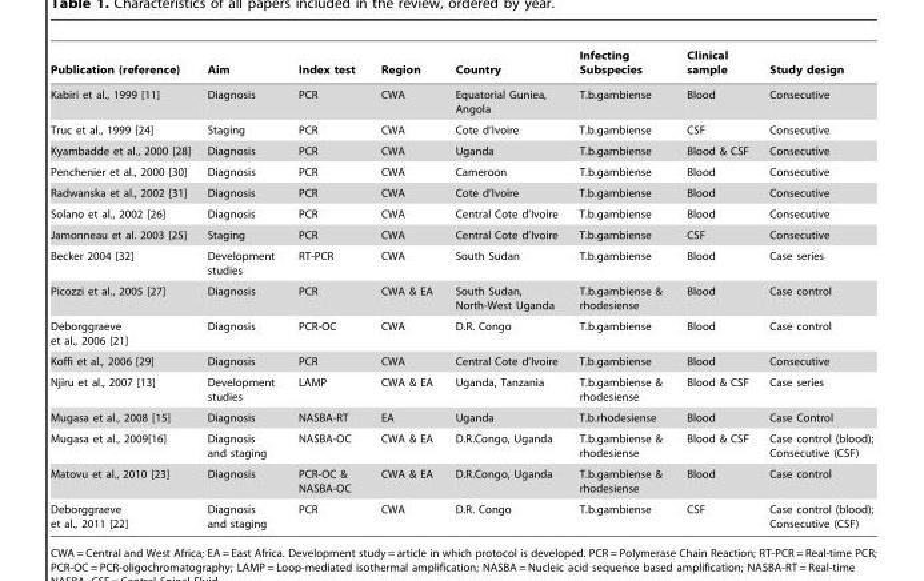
<table><thead><tr><td>Publication (reference)</td><td>Aim</td><td>Index test</td><td>Region</td><td>Country</td><td>Infecting Subspecies</td><td>Clinical sample</td><td>Study design</td></tr></thead><tbody><tr><td>Kabiri et al., 1999 [11]</td><td>Diagnosis</td><td>PCR</td><td>CWA</td><td>Equatorial Guniea, Angola</td><td>T.b.gambiense</td><td>Blood</td><td>Consecutive</td></tr><tr><td>Truc et al., 1999 [24]</td><td>Staging</td><td>PCR</td><td>CWA</td><td>Cote d’Ivoire</td><td>T.b.gambiense</td><td>CSF</td><td>Consecutive</td></tr><tr><td>Kyambadde et al., 2000 [28]</td><td>Diagnosis</td><td>PCR</td><td>CWA</td><td>Uganda</td><td>T.b.gambiense</td><td>Blood &amp; CSF</td><td>Consecutive</td></tr><tr><td>Penchenier et al., 2000 [30]</td><td>Diagnosis</td><td>PCR</td><td>CWA</td><td>Cameroon</td><td>T.b.gambiense</td><td>Blood</td><td>Consecutive</td></tr><tr><td>Radwanska et al., 2002 [31]</td><td>Diagnosis</td><td>PCR</td><td>CWA</td><td>Cote d’Ivoire</td><td>T.b.gambiense</td><td>Blood</td><td>Consecutive</td></tr><tr><td>Solano et al., 2002 [26]</td><td>Diagnosis</td><td>PCR</td><td>CWA</td><td>Central Cote d’Ivoire</td><td>T.b.gambiense</td><td>Blood</td><td>Consecutive</td></tr><tr><td>Jamonneau et al. 2003 [25]</td><td>Staging</td><td>PCR</td><td>CWA</td><td>Central Cote d’Ivoire</td><td>T.b.gambiense</td><td>CSF</td><td>Consecutive</td></tr><tr><td>Becker 2004 [32]</td><td>Development studies</td><td>RT-PCR</td><td>CWA</td><td>South Sudan</td><td>T.b.gambiense</td><td>Blood</td><td>Case series</td></tr><tr><td>Picozzi et al., 2005 [27]</td><td>Diagnosis</td><td>PCR</td><td>CWA &amp; EA</td><td>South Sudan, North-West Uganda</td><td>T.b.gambiense &amp; rhodesiense</td><td>Blood</td><td>Case control</td></tr><tr><td>Deborggraeve et al., 2006 [21]</td><td>Diagnosis</td><td>PCR-OC</td><td>CWA</td><td>D.R. Congo</td><td>T.b.gambiense</td><td>Blood</td><td>Case control</td></tr><tr><td>Koffi et al., 2006 [29]</td><td>Diagnosis</td><td>PCR</td><td>CWA</td><td>Central Cote d’Ivoire</td><td>T.b.gambiense</td><td>Blood</td><td>Consecutive</td></tr><tr><td>Njiru et al., 2007 [13]</td><td>Development studies</td><td>LAMP</td><td>CWA &amp; EA</td><td>Uganda, Tanzania</td><td>T.b.gambiense &amp; rhodesiense</td><td>Blood &amp; CSF</td><td>Case series</td></tr><tr><td>Mugasa et al., 2008 [15]</td><td>Diagnosis</td><td>NASBA-RT</td><td>EA</td><td>Uganda</td><td>T.b.rhodesiense</td><td>Blood</td><td>Case Control</td></tr><tr><td>Mugasa et al., 2009[16]</td><td>Diagnosis and staging</td><td>NASBA-OC</td><td>CWA &amp; EA</td><td>D.R.Congo, Uganda</td><td>T.b.gambiense &amp; rhodesiense</td><td>Blood &amp; CSF</td><td>Case control (blood); Consecutive (CSF)</td></tr><tr><td>Matovu et al., 2010 [23]</td><td>Diagnosis</td><td>PCR-OC &amp; NASBA-OC</td><td>CWA &amp; EA</td><td>D.R.Congo, Uganda</td><td>T.b.gambiense &amp; rhodesiense</td><td>Blood</td><td>Case control</td></tr><tr><td>Deborggraeve et al., 2011 [22]</td><td>Diagnosis and staging</td><td>PCR</td><td>CWA</td><td>D.R. Congo</td><td>T.b.gambiense</td><td>CSF</td><td>Case control (blood); Consecutive (CSF)</td></tr></tbody></table>